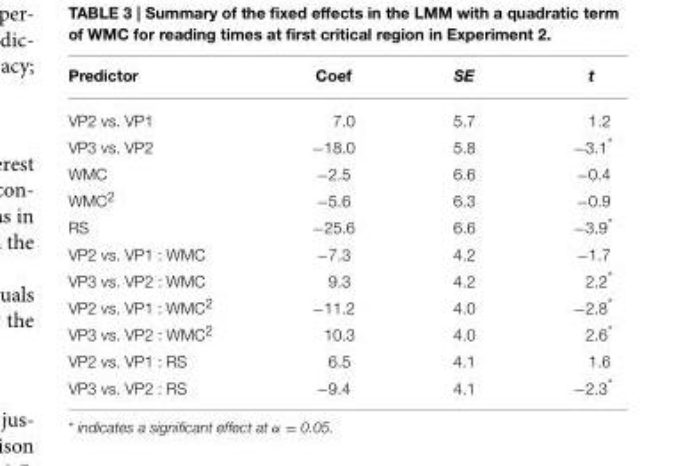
<table><thead><tr><td>Predictor</td><td>Coef</td><td>SE</td><td>t</td></tr></thead><tbody><tr><td>VP2 vs. VP1</td><td>7.0</td><td>5.7</td><td>1.2</td></tr><tr><td>VP3 vs. VP2</td><td>−18.0</td><td>5.8</td><td>−3.1*</td></tr><tr><td>WMC</td><td>−2.5</td><td>6.6</td><td>−0.4</td></tr><tr><td>WMC<sup>2</sup></td><td>−5.6</td><td>6.3</td><td>−0.9</td></tr><tr><td>RS</td><td>−25.6</td><td>6.6</td><td>−3.9*</td></tr><tr><td>VP2 vs. VP1 : WMC</td><td>−7.3</td><td>4.2</td><td>−1.7</td></tr><tr><td>VP3 vs. VP2 : WMC</td><td>9.3</td><td>4.2</td><td>2.2*</td></tr><tr><td>VP2 vs. VP1 : WMC<sup>2</sup></td><td>−11.2</td><td>4.0</td><td>−2.8*</td></tr><tr><td>VP3 vs. VP2 : WMC<sup>2</sup></td><td>10.3</td><td>4.0</td><td>2.6*</td></tr><tr><td>VP2 vs. VP1 : RS</td><td>6.5</td><td>4.1</td><td>1.6</td></tr><tr><td>VP3 vs. VP2 : RS</td><td>−9.4</td><td>4.1</td><td>−2.3*</td></tr></tbody></table>